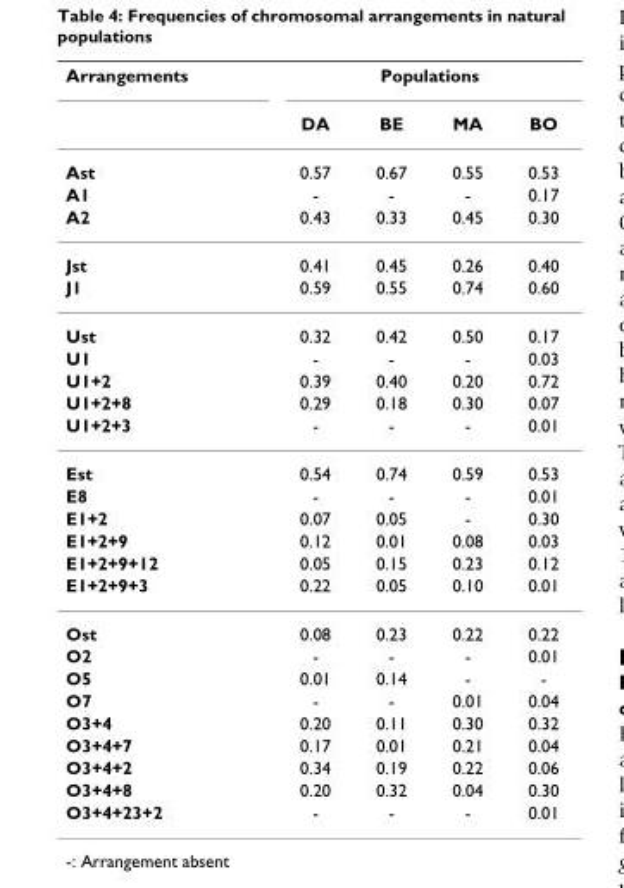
<table><thead><tr><td rowspan="2">Arrangements</td><td colspan="4">Populations</td></tr><tr><td>DA</td><td>BE</td><td>MA</td><td>BO</td></tr></thead><tbody><tr><td>Ast</td><td>0.57</td><td>0.67</td><td>0.55</td><td>0.53</td></tr><tr><td>A1</td><td>-</td><td>-</td><td>-</td><td>0.17</td></tr><tr><td>A2</td><td>0.43</td><td>0.33</td><td>0.45</td><td>0.30</td></tr><tr><td>Jst</td><td>0.41</td><td>0.45</td><td>0.26</td><td>0.40</td></tr><tr><td>J1</td><td>0.59</td><td>0.55</td><td>0.74</td><td>0.60</td></tr><tr><td>Ust</td><td>0.32</td><td>0.42</td><td>0.50</td><td>0.17</td></tr><tr><td>U1</td><td>-</td><td>-</td><td>-</td><td>0.03</td></tr><tr><td>U1+2</td><td>0.39</td><td>0.40</td><td>0.20</td><td>0.72</td></tr><tr><td>U1+2+8</td><td>0.29</td><td>0.18</td><td>0.30</td><td>0.07</td></tr><tr><td>U1+2+3</td><td>-</td><td>-</td><td>-</td><td>0.01</td></tr><tr><td>Est</td><td>0.54</td><td>0.74</td><td>0.59</td><td>0.53</td></tr><tr><td>E8</td><td>-</td><td>-</td><td>-</td><td>0.01</td></tr><tr><td>E1+2</td><td>0.07</td><td>0.05</td><td>-</td><td>0.30</td></tr><tr><td>E1+2+9</td><td>0.12</td><td>0.01</td><td>0.08</td><td>0.03</td></tr><tr><td>E1+2+9+12</td><td>0.05</td><td>0.15</td><td>0.23</td><td>0.12</td></tr><tr><td>E1+2+9+3</td><td>0.22</td><td>0.05</td><td>0.10</td><td>0.01</td></tr><tr><td>Ost</td><td>0.08</td><td>0.23</td><td>0.22</td><td>0.22</td></tr><tr><td>O2</td><td>-</td><td>-</td><td>-</td><td>0.01</td></tr><tr><td>O5</td><td>0.01</td><td>0.14</td><td>-</td><td>-</td></tr><tr><td>O7</td><td>-</td><td>-</td><td>0.01</td><td>0.04</td></tr><tr><td>O3+4</td><td>0.20</td><td>0.11</td><td>0.30</td><td>0.32</td></tr><tr><td>O3+4+7</td><td>0.17</td><td>0.01</td><td>0.21</td><td>0.04</td></tr><tr><td>O3+4+2</td><td>0.34</td><td>0.19</td><td>0.22</td><td>0.06</td></tr><tr><td>O3+4+8</td><td>0.20</td><td>0.32</td><td>0.04</td><td>0.30</td></tr><tr><td>O3+4+23+2</td><td>-</td><td>-</td><td>-</td><td>0.01</td></tr></tbody></table>